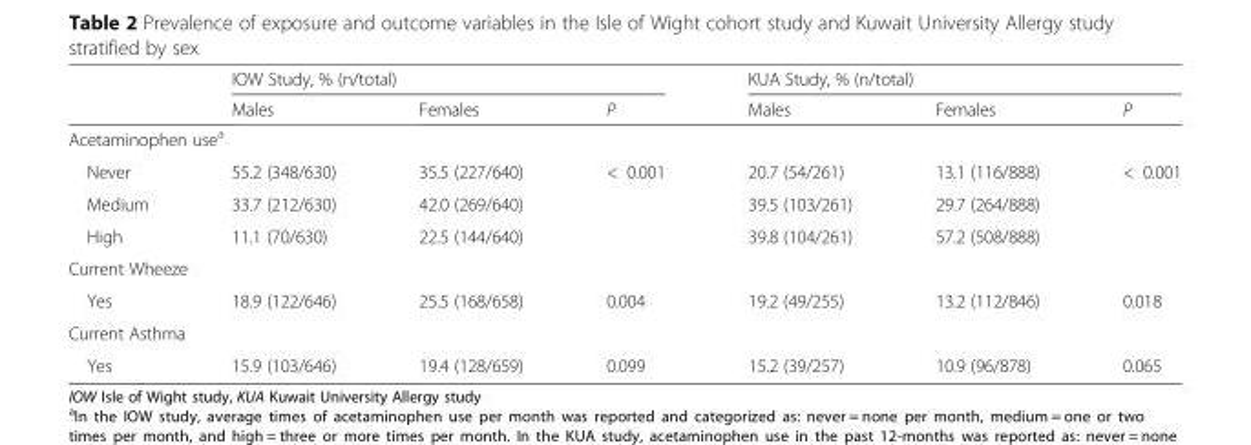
<table><thead><tr><td rowspan="2"></td><td colspan="3">IOW Study, % (n/total)</td><td colspan="3">KUA Study, % (n/total)</td></tr><tr><td>Males</td><td>Females</td><td>P</td><td>Males</td><td>Females</td><td>P</td></tr></thead><tbody><tr><td colspan="7">Acetaminophen use<sup>a</sup></td></tr><tr><td>Never</td><td>55.2 (348/630)</td><td>35.5 (227/640)</td><td>&lt; 0.001</td><td>20.7 (54/261)</td><td>13.1 (116/888)</td><td>&lt; 0.001</td></tr><tr><td>Medium</td><td>33.7 (212/630)</td><td>42.0 (269/640)</td><td></td><td>39.5 (103/261)</td><td>29.7 (264/888)</td><td></td></tr><tr><td>High</td><td>11.1 (70/630)</td><td>22.5 (144/640)</td><td></td><td>39.8 (104/261)</td><td>57.2 (508/888)</td><td></td></tr><tr><td colspan="7">Current Wheeze</td></tr><tr><td>Yes</td><td>18.9 (122/646)</td><td>25.5 (168/658)</td><td>0.004</td><td>19.2 (49/255)</td><td>13.2 (112/846)</td><td>0.018</td></tr><tr><td colspan="7">Current Asthma</td></tr><tr><td>Yes</td><td>15.9 (103/646)</td><td>19.4 (128/659)</td><td>0.099</td><td>15.2 (39/257)</td><td>10.9 (96/878)</td><td>0.065</td></tr></tbody></table>